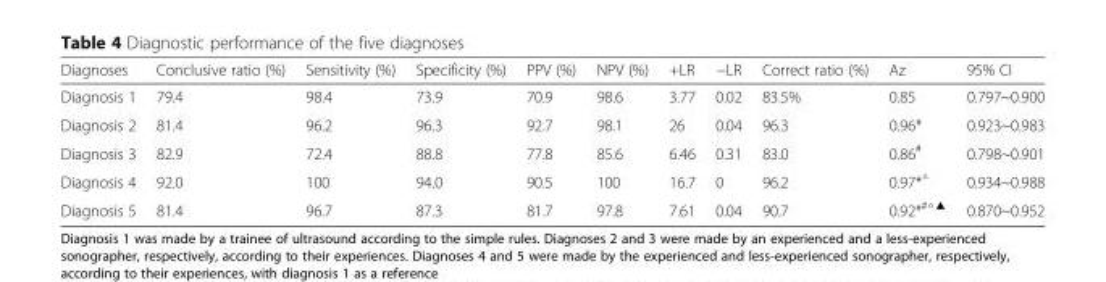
<table><thead><tr><td>Diagnoses</td><td>Conclusive ratio (%)</td><td>Sensitivity (%)</td><td>Specificity (%)</td><td>PPV (%)</td><td>NPV (%)</td><td>+LR</td><td>−LR</td><td>Correct ratio (%)</td><td>Az</td><td>95% CI</td></tr></thead><tbody><tr><td>Diagnosis 1</td><td>79.4</td><td>98.4</td><td>73.9</td><td>70.9</td><td>98.6</td><td>3.77</td><td>0.02</td><td>83.5%</td><td>0.85</td><td>0.797~0.900</td></tr><tr><td>Diagnosis 2</td><td>81.4</td><td>96.2</td><td>96.3</td><td>92.7</td><td>98.1</td><td>26</td><td>0.04</td><td>96.3</td><td>0.96*</td><td>0.923~0.983</td></tr><tr><td>Diagnosis 3</td><td>82.9</td><td>72.4</td><td>88.8</td><td>77.8</td><td>85.6</td><td>6.46</td><td>0.31</td><td>83.0</td><td>0.86<sup>#</sup></td><td>0.798~0.901</td></tr><tr><td>Diagnosis 4</td><td>92.0</td><td>100</td><td>94.0</td><td>90.5</td><td>100</td><td>16.7</td><td>0</td><td>96.2</td><td>0.97*<sup>△</sup></td><td>0.934~0.988</td></tr><tr><td>Diagnosis 5</td><td>81.4</td><td>96.7</td><td>87.3</td><td>81.7</td><td>97.8</td><td>7.61</td><td>0.04</td><td>90.7</td><td>0.92*<sup>#△▲</sup></td><td>0.870~0.952</td></tr></tbody></table>